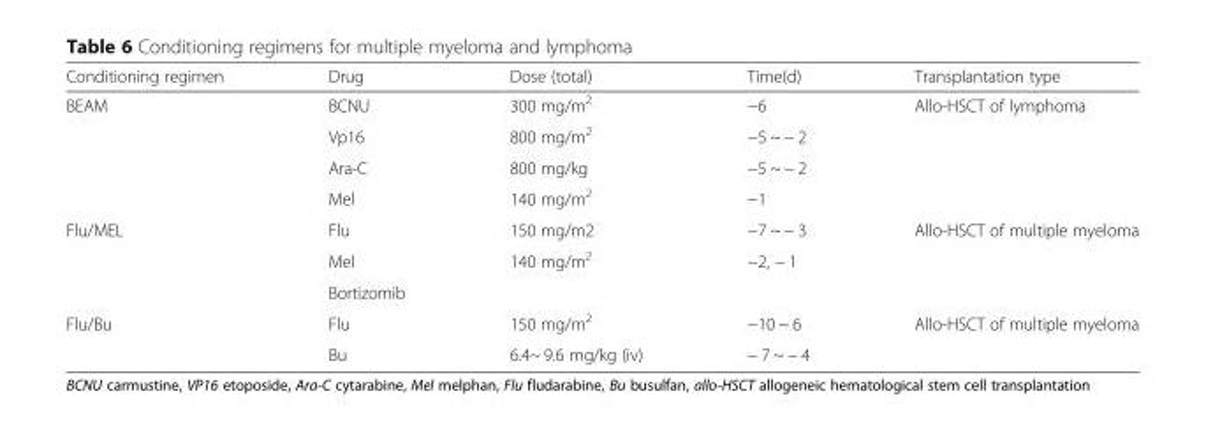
<table><thead><tr><td>Conditioning regimen</td><td>Drug</td><td>Dose (total)</td><td>Time(d)</td><td>Transplantation type</td></tr></thead><tbody><tr><td rowspan="4">BEAM</td><td>BCNU</td><td>300 mg/m<sup>2</sup></td><td>−6</td><td rowspan="4">Allo-HSCT of lymphoma</td></tr><tr><td>Vp16</td><td>800 mg/m<sup>2</sup></td><td>−5 ~ − 2</td></tr><tr><td>Ara-C</td><td>800 mg/kg</td><td>−5 ~ − 2</td></tr><tr><td>Mel</td><td>140 mg/m<sup>2</sup></td><td>−1</td></tr><tr><td rowspan="3">Flu/MEL</td><td>Flu</td><td>150 mg/m2</td><td>−7 ~ − 3</td><td rowspan="3">Allo-HSCT of multiple myeloma</td></tr><tr><td>Mel</td><td>140 mg/m<sup>2</sup></td><td>−2, − 1</td></tr><tr><td>Bortizomib</td><td></td><td></td></tr><tr><td rowspan="2">Flu/Bu</td><td>Flu</td><td>150 mg/m<sup>2</sup></td><td>−10 ~ 6</td><td rowspan="2">Allo-HSCT of multiple myeloma</td></tr><tr><td>Bu</td><td>6.4~ 9.6 mg/kg (iv)</td><td>− 7 ~ − 4</td></tr></tbody></table>